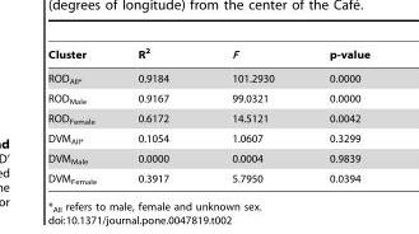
<table><thead><tr><td>Cluster</td><td>R<sup>2</sup></td><td>F</td><td>p-value</td></tr></thead><tbody><tr><td>ROD<sub>All</sub>*</td><td>0.9184</td><td>101.2930</td><td>0.0000</td></tr><tr><td>ROD<sub>Male</sub></td><td>0.9167</td><td>99.0321</td><td>0.0000</td></tr><tr><td>ROD<sub>Female</sub></td><td>0.6172</td><td>14.5121</td><td>0.0042</td></tr><tr><td>DVM<sub>All</sub>*</td><td>0.1054</td><td>1.0607</td><td>0.3299</td></tr><tr><td>DVM<sub>Male</sub></td><td>0.0000</td><td>0.0004</td><td>0.9839</td></tr><tr><td>DVM<sub>Female</sub></td><td>0.3917</td><td>5.7950</td><td>0.0394</td></tr></tbody></table>